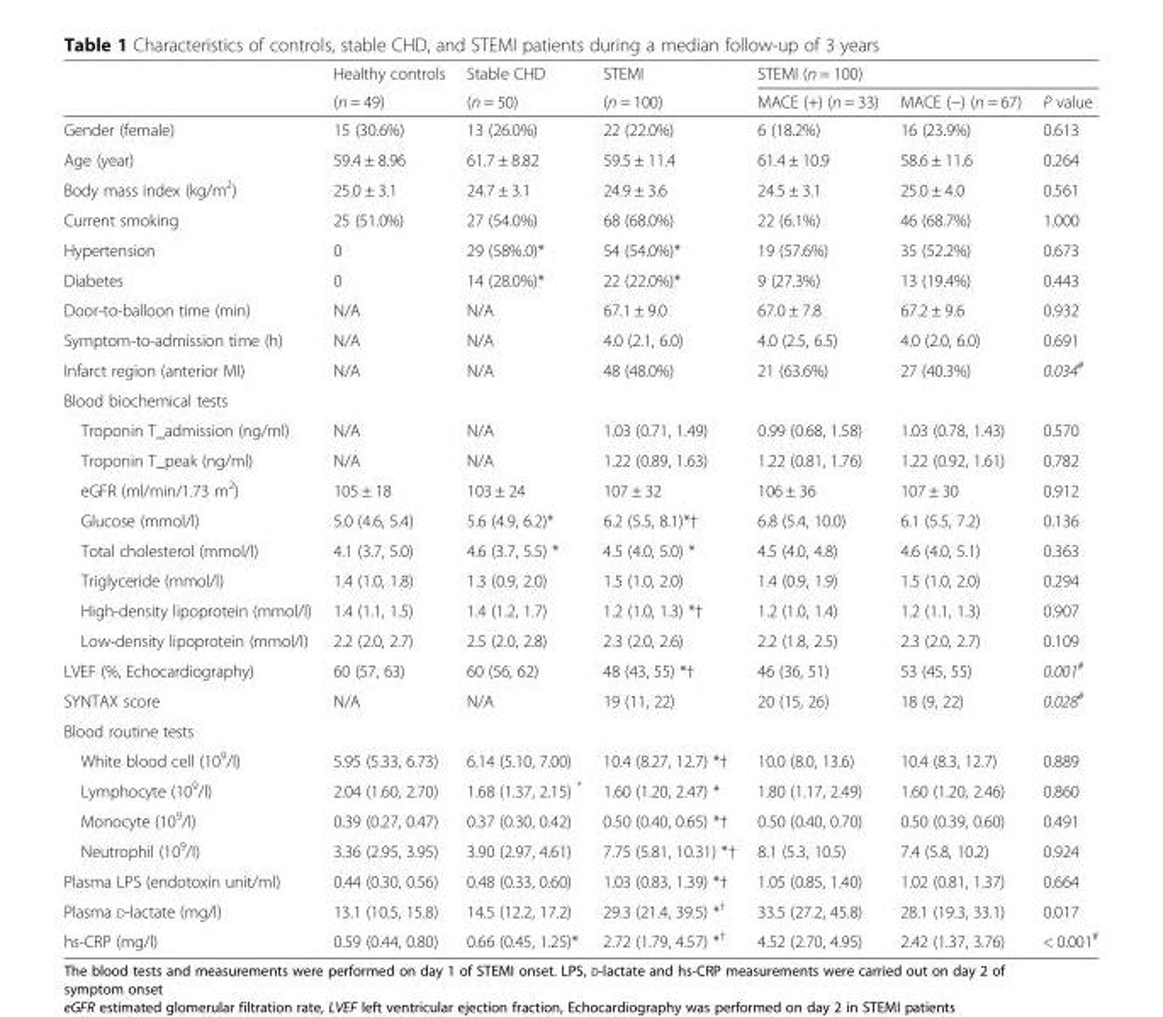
<table><thead><tr><td rowspan="2"></td><td rowspan="2">Healthy controls (n = 49)</td><td rowspan="2">Stable CHD (n = 50)</td><td rowspan="2">STEMI (n = 100)</td><td colspan="3">STEMI (n = 100)</td></tr><tr><td>MACE (+) (n = 33)</td><td>MACE (−) (n = 67)</td><td>P value</td></tr></thead><tbody><tr><td>Gender (female)</td><td>15 (30.6%)</td><td>13 (26.0%)</td><td>22 (22.0%)</td><td>6 (18.2%)</td><td>16 (23.9%)</td><td>0.613</td></tr><tr><td>Age (year)</td><td>59.4 ± 8.96</td><td>61.7 ± 8.82</td><td>59.5 ± 11.4</td><td>61.4 ± 10.9</td><td>58.6 ± 11.6</td><td>0.264</td></tr><tr><td>Body mass index (kg/m<sup>2</sup>)</td><td>25.0 ± 3.1</td><td>24.7 ± 3.1</td><td>24.9 ± 3.6</td><td>24.5 ± 3.1</td><td>25.0 ± 4.0</td><td>0.561</td></tr><tr><td>Current smoking</td><td>25 (51.0%)</td><td>27 (54.0%)</td><td>68 (68.0%)</td><td>22 (6.1%)</td><td>46 (68.7%)</td><td>1.000</td></tr><tr><td>Hypertension</td><td>0</td><td>29 (58%.0)*</td><td>54 (54.0%)*</td><td>19 (57.6%)</td><td>35 (52.2%)</td><td>0.673</td></tr><tr><td>Diabetes</td><td>0</td><td>14 (28.0%)*</td><td>22 (22.0%)*</td><td>9 (27.3%)</td><td>13 (19.4%)</td><td>0.443</td></tr><tr><td>Door-to-balloon time (min)</td><td>N/A</td><td>N/A</td><td>67.1 ± 9.0</td><td>67.0 ± 7.8</td><td>67.2 ± 9.6</td><td>0.932</td></tr><tr><td>Symptom-to-admission time (h)</td><td>N/A</td><td>N/A</td><td>4.0 (2.1, 6.0)</td><td>4.0 (2.5, 6.5)</td><td>4.0 (2.0, 6.0)</td><td>0.691</td></tr><tr><td>Infarct region (anterior MI)</td><td>N/A</td><td>N/A</td><td>48 (48.0%)</td><td>21 (63.6%)</td><td>27 (40.3%)</td><td>0.034<sup>#</sup></td></tr><tr><td colspan="7">Blood biochemical tests</td></tr><tr><td>Troponin T_admission (ng/ml)</td><td>N/A</td><td>N/A</td><td>1.03 (0.71, 1.49)</td><td>0.99 (0.68, 1.58)</td><td>1.03 (0.78, 1.43)</td><td>0.570</td></tr><tr><td>Troponin T_peak (ng/ml)</td><td>N/A</td><td>N/A</td><td>1.22 (0.89, 1.63)</td><td>1.22 (0.81, 1.76)</td><td>1.22 (0.92, 1.61)</td><td>0.782</td></tr><tr><td>eGFR (ml/min/1.73 m<sup>2</sup>)</td><td>105 ± 18</td><td>103 ± 24</td><td>107 ± 32</td><td>106 ± 36</td><td>107 ± 30</td><td>0.912</td></tr><tr><td>Glucose (mmol/l)</td><td>5.0 (4.6, 5.4)</td><td>5.6 (4.9, 6.2)*</td><td>6.2 (5.5, 8.1)*†</td><td>6.8 (5.4, 10.0)</td><td>6.1 (5.5, 7.2)</td><td>0.136</td></tr><tr><td>Total cholesterol (mmol/l)</td><td>4.1 (3.7, 5.0)</td><td>4.6 (3.7, 5.5) *</td><td>4.5 (4.0, 5.0) *</td><td>4.5 (4.0, 4.8)</td><td>4.6 (4.0, 5.1)</td><td>0.363</td></tr><tr><td>Triglyceride (mmol/l)</td><td>1.4 (1.0, 1.8)</td><td>1.3 (0.9, 2.0)</td><td>1.5 (1.0, 2.0)</td><td>1.4 (0.9, 1.9)</td><td>1.5 (1.0, 2.0)</td><td>0.294</td></tr><tr><td>High-density lipoprotein (mmol/l)</td><td>1.4 (1.1, 1.5)</td><td>1.4 (1.2, 1.7)</td><td>1.2 (1.0, 1.3) *†</td><td>1.2 (1.0, 1.4)</td><td>1.2 (1.1, 1.3)</td><td>0.907</td></tr><tr><td>Low-density lipoprotein (mmol/l)</td><td>2.2 (2.0, 2.7)</td><td>2.5 (2.0, 2.8)</td><td>2.3 (2.0, 2.6)</td><td>2.2 (1.8, 2.5)</td><td>2.3 (2.0, 2.7)</td><td>0.109</td></tr><tr><td>LVEF (%, Echocardiography)</td><td>60 (57, 63)</td><td>60 (56, 62)</td><td>48 (43, 55) *†</td><td>46 (36, 51)</td><td>53 (45, 55)</td><td>0.001<sup>#</sup></td></tr><tr><td>SYNTAX score</td><td>N/A</td><td>N/A</td><td>19 (11, 22)</td><td>20 (15, 26)</td><td>18 (9, 22)</td><td>0.028<sup>#</sup></td></tr><tr><td colspan="7">Blood routine tests</td></tr><tr><td>White blood cell (10<sup>9</sup>/l)</td><td>5.95 (5.33, 6.73)</td><td>6.14 (5.10, 7.00)</td><td>10.4 (8.27, 12.7) *†</td><td>10.0 (8.0, 13.6)</td><td>10.4 (8.3, 12.7)</td><td>0.889</td></tr><tr><td>Lymphocyte (10<sup>9</sup>/l)</td><td>2.04 (1.60, 2.70)</td><td>1.68 (1.37, 2.15) *</td><td>1.60 (1.20, 2.47) *</td><td>1.80 (1.17, 2.49)</td><td>1.60 (1.20, 2.46)</td><td>0.860</td></tr><tr><td>Monocyte (10<sup>9</sup>/l)</td><td>0.39 (0.27, 0.47)</td><td>0.37 (0.30, 0.42)</td><td>0.50 (0.40, 0.65) *†</td><td>0.50 (0.40, 0.70)</td><td>0.50 (0.39, 0.60)</td><td>0.491</td></tr><tr><td>Neutrophil (10<sup>9</sup>/l)</td><td>3.36 (2.95, 3.95)</td><td>3.90 (2.97, 4.61)</td><td>7.75 (5.81, 10.31) *†</td><td>8.1 (5.3, 10.5)</td><td>7.4 (5.8, 10.2)</td><td>0.924</td></tr><tr><td>Plasma LPS (endotoxin unit/ml)</td><td>0.44 (0.30, 0.56)</td><td>0.48 (0.33, 0.60)</td><td>1.03 (0.83, 1.39) *†</td><td>1.05 (0.85, 1.40)</td><td>1.02 (0.81, 1.37)</td><td>0.664</td></tr><tr><td>Plasma D-lactate (mg/l)</td><td>13.1 (10.5, 15.8)</td><td>14.5 (12.2, 17.2)</td><td>29.3 (21.4, 39.5) *<sup>†</sup></td><td>33.5 (27.2, 45.8)</td><td>28.1 (19.3, 33.1)</td><td>0.017</td></tr><tr><td>hs-CRP (mg/l)</td><td>0.59 (0.44, 0.80)</td><td>0.66 (0.45, 1.25)*</td><td>2.72 (1.79, 4.57) *<sup>†</sup></td><td>4.52 (2.70, 4.95)</td><td>2.42 (1.37, 3.76)</td><td>&lt; 0.001<sup>#</sup></td></tr></tbody></table>